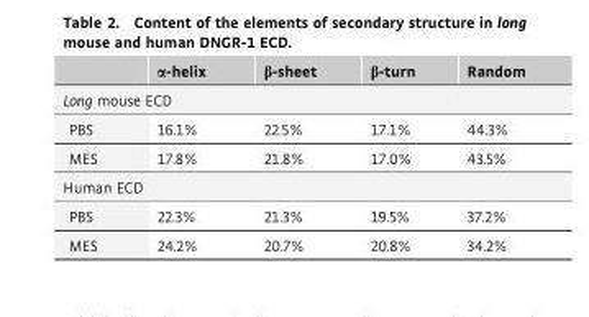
<table><thead><tr><td></td><td>α-helix</td><td>β-sheet</td><td>β-turn</td><td>Random</td></tr></thead><tbody><tr><td colspan="5">Long mouse ECD</td></tr><tr><td>PBS</td><td>16.1%</td><td>22.5%</td><td>17.1%</td><td>44.3%</td></tr><tr><td>MES</td><td>17.8%</td><td>21.8%</td><td>17.0%</td><td>43.5%</td></tr><tr><td colspan="5">Human ECD</td></tr><tr><td>PBS</td><td>22.3%</td><td>21.3%</td><td>19.5%</td><td>37.2%</td></tr><tr><td>MES</td><td>24.2%</td><td>20.7%</td><td>20.8%</td><td>34.2%</td></tr></tbody></table>